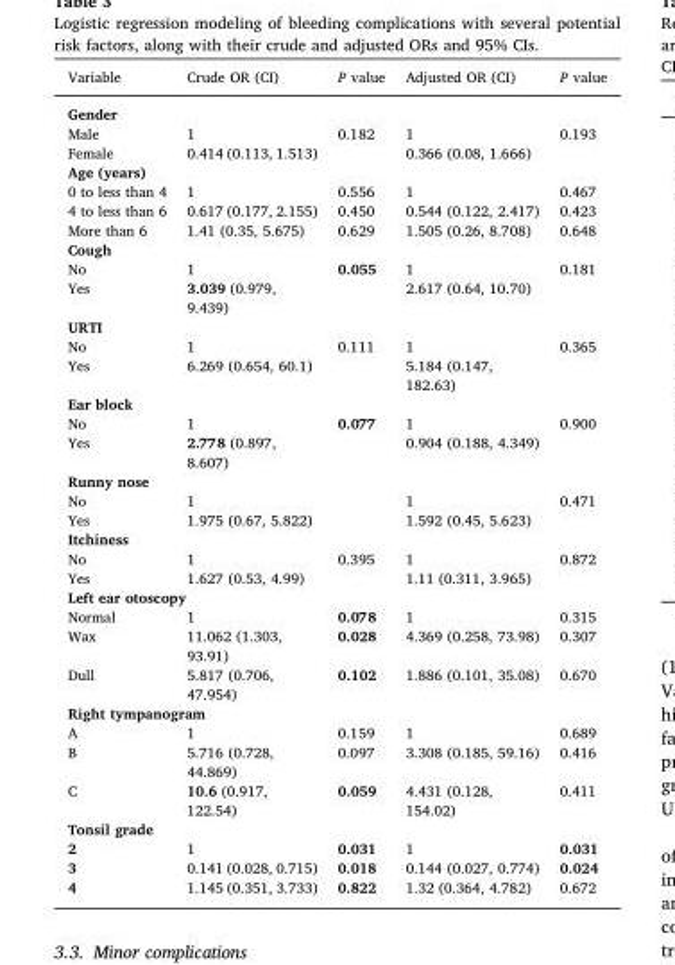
<table><thead><tr><td>Variable</td><td>Crude OR (CI)</td><td>P value</td><td>Adjusted OR (CI)</td><td>P value</td></tr></thead><tbody><tr><td colspan="5">Gender</td></tr><tr><td>Male</td><td>1</td><td>0.182</td><td>1</td><td>0.193</td></tr><tr><td>Female</td><td>0.414 (0.113, 1.513)</td><td></td><td>0.366 (0.08, 1.666)</td><td></td></tr><tr><td colspan="5">Age (years)</td></tr><tr><td>0 to less than 4</td><td>1</td><td>0.556</td><td>1</td><td>0.467</td></tr><tr><td>4 to less than 6</td><td>0.617 (0.177, 2.155)</td><td>0.450</td><td>0.544 (0.122, 2.417)</td><td>0.423</td></tr><tr><td>More than 6</td><td>1.41 (0.35, 5.675)</td><td>0.629</td><td>1.505 (0.26, 8.708)</td><td>0.648</td></tr><tr><td colspan="5">Cough</td></tr><tr><td>No</td><td>1</td><td>0.055</td><td>1</td><td>0.181</td></tr><tr><td>Yes</td><td>3.039 (0.979, 9.439)</td><td></td><td>2.617 (0.64, 10.70)</td><td></td></tr><tr><td colspan="5">URTI</td></tr><tr><td>No</td><td>1</td><td>0.111</td><td>1</td><td>0.365</td></tr><tr><td>Yes</td><td>6.269 (0.654, 60.1)</td><td></td><td>5.184 (0.147, 182.63)</td><td></td></tr><tr><td colspan="5">Ear block</td></tr><tr><td>No</td><td>1</td><td>0.077</td><td>1</td><td>0.900</td></tr><tr><td>Yes</td><td>2.778 (0.897, 8.607)</td><td></td><td>0.904 (0.188, 4.349)</td><td></td></tr><tr><td colspan="5">Runny nose</td></tr><tr><td>No</td><td>1</td><td></td><td>1</td><td>0.471</td></tr><tr><td>Yes</td><td>1.975 (0.67, 5.822)</td><td></td><td>1.592 (0.45, 5.623)</td><td></td></tr><tr><td colspan="5">Itchiness</td></tr><tr><td>No</td><td>1</td><td>0.395</td><td>1</td><td>0.872</td></tr><tr><td>Yes</td><td>1.627 (0.53, 4.99)</td><td></td><td>1.11 (0.311, 3.965)</td><td></td></tr><tr><td colspan="5">Left ear otoscopy</td></tr><tr><td>Normal</td><td>1</td><td>0.078</td><td>1</td><td>0.315</td></tr><tr><td>Wax</td><td>11.062 (1.303, 93.91)</td><td>0.028</td><td>4.369 (0.258, 73.98)</td><td>0.307</td></tr><tr><td>Dull</td><td>5.817 (0.706, 47.954)</td><td>0.102</td><td>1.886 (0.101, 35.08)</td><td>0.670</td></tr><tr><td colspan="5">Right tympanogram</td></tr><tr><td>A</td><td>1</td><td>0.159</td><td>1</td><td>0.689</td></tr><tr><td>B</td><td>5.716 (0.728, 44.869)</td><td>0.097</td><td>3.308 (0.185, 59.16)</td><td>0.416</td></tr><tr><td>C</td><td>10.6 (0.917, 122.54)</td><td>0.059</td><td>4.431 (0.128, 154.02)</td><td>0.411</td></tr><tr><td colspan="5">Tonsil grade</td></tr><tr><td>2</td><td>1</td><td>0.031</td><td>1</td><td>0.031</td></tr><tr><td>3</td><td>0.141 (0.028, 0.715)</td><td>0.018</td><td>0.144 (0.027, 0.774)</td><td>0.024</td></tr><tr><td>4</td><td>1.145 (0.351, 3.733)</td><td>0.822</td><td>1.32 (0.364, 4.782)</td><td>0.672</td></tr></tbody></table>